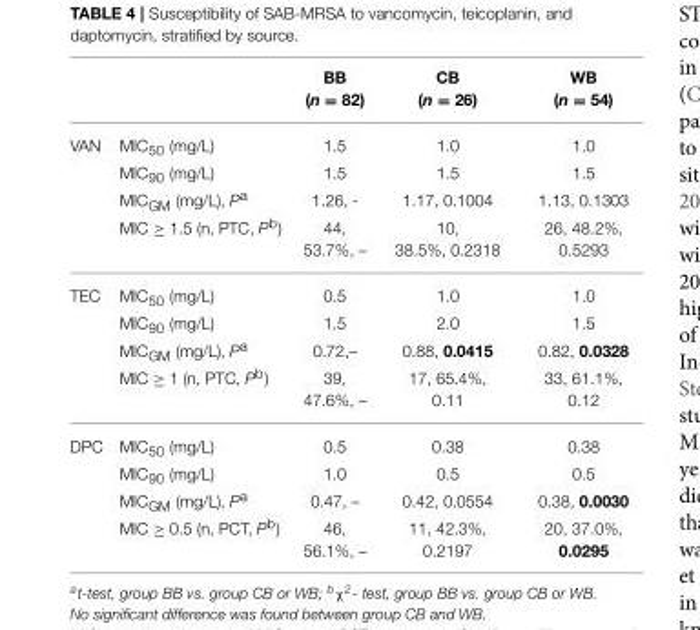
<table><thead><tr><td></td><td></td><td>BB (n = 82)</td><td>CB (n = 26)</td><td>WB (n = 54)</td></tr></thead><tbody><tr><td rowspan="4">VAN</td><td>MIC<sub>50</sub> (mg/L)</td><td>1.5</td><td>1.0</td><td>1.0</td></tr><tr><td>MIC<sub>90</sub> (mg/L)</td><td>1.5</td><td>1.5</td><td>1.5</td></tr><tr><td>MIC<sub>GM</sub> (mg/L), P<sup>a</sup></td><td>1.26, -</td><td>1.17, 0.1004</td><td>1.13, 0.1303</td></tr><tr><td>MIC ≥ 1.5 (n, PTC, P<sup>b</sup>)</td><td>44, 53.7%, –</td><td>10, 38.5%, 0.2318</td><td>26, 48.2%, 0.5293</td></tr><tr><td rowspan="4">TEC</td><td>MIC<sub>50</sub> (mg/L)</td><td>0.5</td><td>1.0</td><td>1.0</td></tr><tr><td>MIC<sub>90</sub> (mg/L)</td><td>1.5</td><td>2.0</td><td>1.5</td></tr><tr><td>MIC<sub>GM</sub> (mg/L), P<sup>a</sup></td><td>0.72,–</td><td>0.88, 0.0415</td><td>0.82, 0.0328</td></tr><tr><td>MIC ≥ 1 (n, PTC, P<sup>b</sup>)</td><td>39, 47.6%, –</td><td>17, 65.4%, 0.11</td><td>33, 61.1%, 0.12</td></tr><tr><td rowspan="4">DPC</td><td>MIC<sub>50</sub> (mg/L)</td><td>0.5</td><td>0.38</td><td>0.38</td></tr><tr><td>MIC<sub>90</sub> (mg/L)</td><td>1.0</td><td>0.5</td><td>0.5</td></tr><tr><td>MIC<sub>GM</sub> (mg/L), P<sup>a</sup></td><td>0.47, –</td><td>0.42, 0.0554</td><td>0.38, 0.0030</td></tr><tr><td>MIC ≥ 0.5 (n, PCT, P<sup>b</sup>)</td><td>46, 56.1%, –</td><td>11, 42.3%, 0.2197</td><td>20, 37.0%, 0.0295</td></tr></tbody></table>